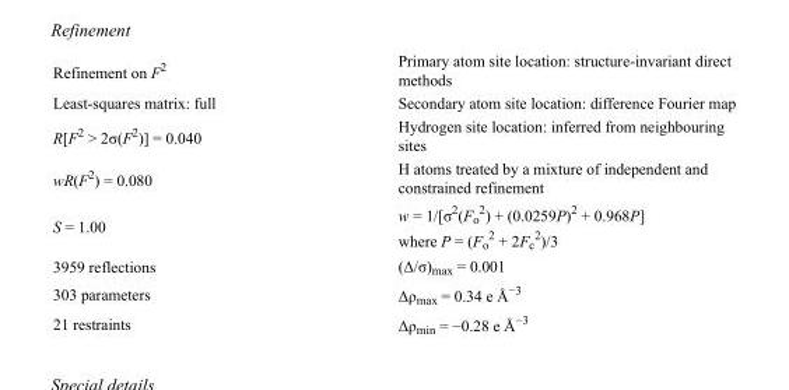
<table><tbody><tr><td>Refinement on F<sup>2</sup></td><td>Primary atom site location: structure-invariant direct methods</td></tr><tr><td>Least-squares matrix: full</td><td>Secondary atom site location: difference Fourier map</td></tr><tr><td>R[F<sup>2</sup> &gt; 2σ(F<sup>2</sup>)] = 0.040</td><td>Hydrogen site location: inferred from neighbouring sites</td></tr><tr><td>wR(F<sup>2</sup>) = 0.080</td><td>H atoms treated by a mixture of independent and constrained refinement</td></tr><tr><td>S = 1.00</td><td>w = 1/[σ<sup>2</sup>(F<sub>o</sub> <sup>2</sup>) + (0.0259P)<sup>2</sup> + 0.968P] where P = (F<sub>o</sub> <sup>2</sup> + 2F<sub>c</sub> <sup>2</sup>)/3</td></tr><tr><td>3959 reflections</td><td>(Δ/σ)<sub>max</sub> = 0.001</td></tr><tr><td>303 parameters</td><td>Δρ<sub>max</sub> = 0.34 e Å<sup>−3</sup></td></tr><tr><td>21 restraints</td><td>Δρ<sub>min</sub> = −0.28 e Å<sup>−3</sup></td></tr></tbody></table>